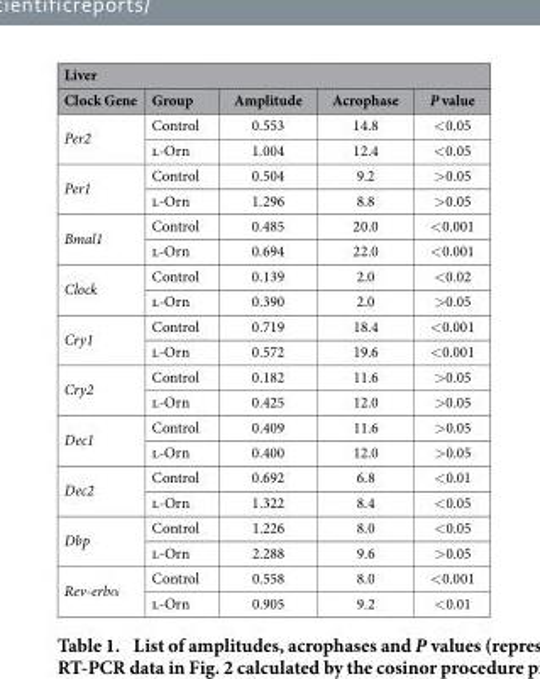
<table><thead><tr><td colspan="5">Liver</td></tr><tr><td>Clock Gene</td><td>Group</td><td>Amplitude</td><td>Acrophase</td><td>P value</td></tr></thead><tbody><tr><td rowspan="2">Per2</td><td>Control</td><td>0.553</td><td>14.8</td><td>&lt; 0.05</td></tr><tr><td>l-Orn</td><td>1.004</td><td>12.4</td><td>&lt; 0.05</td></tr><tr><td rowspan="2">Per1</td><td>Control</td><td>0.504</td><td>9.2</td><td>&gt; 0.05</td></tr><tr><td>l-Orn</td><td>1.296</td><td>8.8</td><td>&gt; 0.05</td></tr><tr><td rowspan="2">Bmal1</td><td>Control</td><td>0.485</td><td>20.0</td><td>&lt; 0.001</td></tr><tr><td>l-Orn</td><td>0.694</td><td>22.0</td><td>&lt; 0.001</td></tr><tr><td rowspan="2">Clock</td><td>Control</td><td>0.139</td><td>2.0</td><td>&lt; 0.02</td></tr><tr><td>l-Orn</td><td>0.390</td><td>2.0</td><td>&gt; 0.05</td></tr><tr><td rowspan="2">Cry1</td><td>Control</td><td>0.719</td><td>18.4</td><td>&lt; 0.001</td></tr><tr><td>l-Orn</td><td>0.572</td><td>19.6</td><td>&lt; 0.001</td></tr><tr><td rowspan="2">Cry2</td><td>Control</td><td>0.182</td><td>11.6</td><td>&gt; 0.05</td></tr><tr><td>l-Orn</td><td>0.425</td><td>12.0</td><td>&gt; 0.05</td></tr><tr><td rowspan="2">Dec1</td><td>Control</td><td>0.409</td><td>11.6</td><td>&gt; 0.05</td></tr><tr><td>l-Orn</td><td>0.400</td><td>12.0</td><td>&gt; 0.05</td></tr><tr><td rowspan="2">Dec2</td><td>Control</td><td>0.692</td><td>6.8</td><td>&lt; 0.01</td></tr><tr><td>l-Orn</td><td>1.322</td><td>8.4</td><td>&lt; 0.05</td></tr><tr><td rowspan="2">Dbp</td><td>Control</td><td>1.226</td><td>8.0</td><td>&lt; 0.05</td></tr><tr><td>l-Orn</td><td>2.288</td><td>9.6</td><td>&gt; 0.05</td></tr><tr><td rowspan="2">Rev-erbα</td><td>Control</td><td>0.558</td><td>8.0</td><td>&lt; 0.001</td></tr><tr><td>l-Orn</td><td>0.905</td><td>9.2</td><td>&lt; 0.01</td></tr></tbody></table>